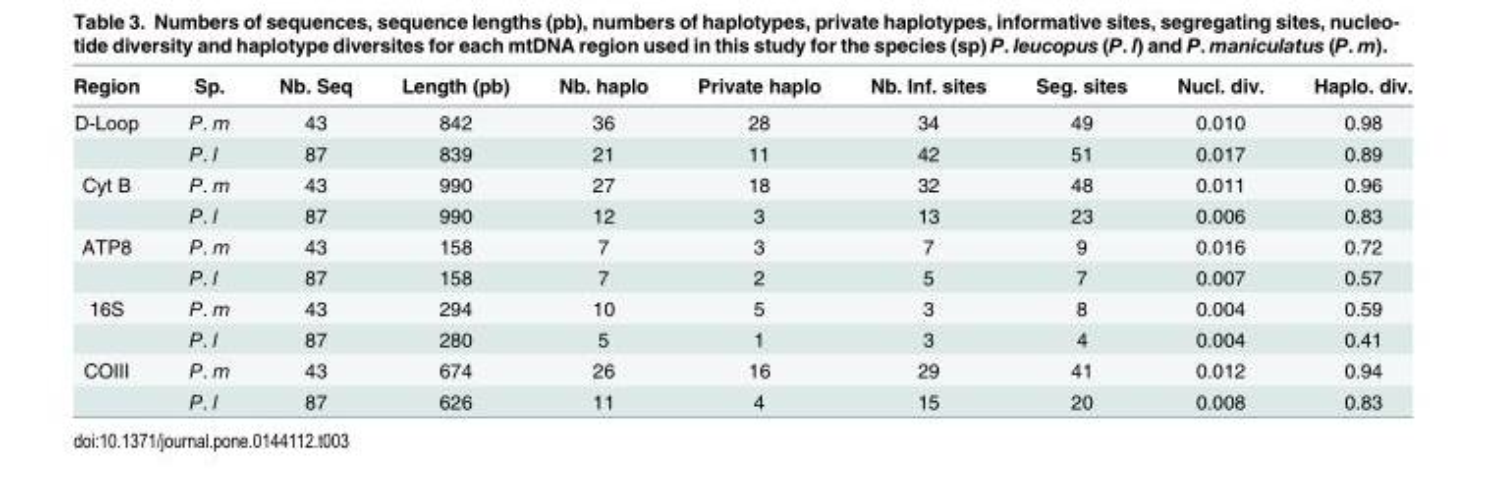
<table><thead><tr><td>Region</td><td>Sp.</td><td>Nb. Seq</td><td>Length (pb)</td><td>Nb. haplo</td><td>Private haplo</td><td>Nb. Inf. sites</td><td>Seg. sites</td><td>Nucl. div.</td><td>Haplo. div.</td></tr></thead><tbody><tr><td rowspan="2">D-Loop</td><td>P. m</td><td>43</td><td>842</td><td>36</td><td>28</td><td>34</td><td>49</td><td>0.010</td><td>0.98</td></tr><tr><td>P. l</td><td>87</td><td>839</td><td>21</td><td>11</td><td>42</td><td>51</td><td>0.017</td><td>0.89</td></tr><tr><td rowspan="2">Cyt B</td><td>P. m</td><td>43</td><td>990</td><td>27</td><td>18</td><td>32</td><td>48</td><td>0.011</td><td>0.96</td></tr><tr><td>P. l</td><td>87</td><td>990</td><td>12</td><td>3</td><td>13</td><td>23</td><td>0.006</td><td>0.83</td></tr><tr><td rowspan="2">ATP8</td><td>P. m</td><td>43</td><td>158</td><td>7</td><td>3</td><td>7</td><td>9</td><td>0.016</td><td>0.72</td></tr><tr><td>P. l</td><td>87</td><td>158</td><td>7</td><td>2</td><td>5</td><td>7</td><td>0.007</td><td>0.57</td></tr><tr><td rowspan="2">16S</td><td>P. m</td><td>43</td><td>294</td><td>10</td><td>5</td><td>3</td><td>8</td><td>0.004</td><td>0.59</td></tr><tr><td>P. l</td><td>87</td><td>280</td><td>5</td><td>1</td><td>3</td><td>4</td><td>0.004</td><td>0.41</td></tr><tr><td rowspan="2">COIII</td><td>P. m</td><td>43</td><td>674</td><td>26</td><td>16</td><td>29</td><td>41</td><td>0.012</td><td>0.94</td></tr><tr><td>P. l</td><td>87</td><td>626</td><td>11</td><td>4</td><td>15</td><td>20</td><td>0.008</td><td>0.83</td></tr></tbody></table>